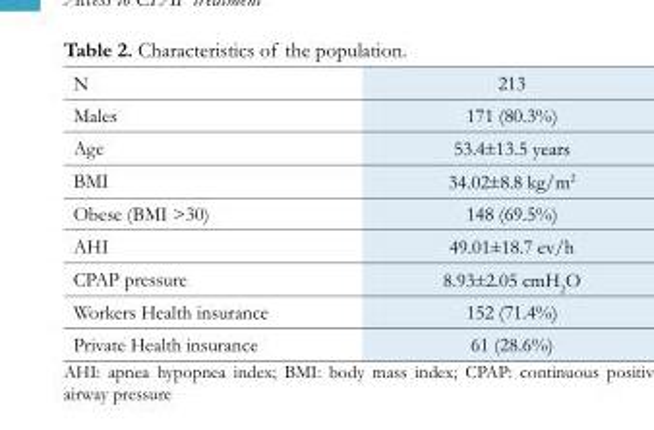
<table><thead><tr><td>N</td><td>213</td></tr></thead><tbody><tr><td>Males</td><td>171 (80.3%)</td></tr><tr><td>Age</td><td>53.4±13.5 years</td></tr><tr><td>BMI</td><td>34.02±8.8 kg/m<sup>2</sup></td></tr><tr><td>Obese (BMI &gt;30)</td><td>148 (69.5%)</td></tr><tr><td>AHI</td><td>49.01±18.7 ev/h</td></tr><tr><td>CPAP pressure</td><td>8.93±2.05 cmH<sub>2</sub>O</td></tr><tr><td>Workers Health insurance</td><td>152 (71.4%)</td></tr><tr><td>Private Health insurance</td><td>61 (28.6%)</td></tr></tbody></table>